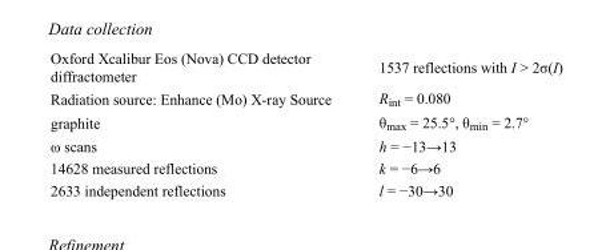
<table><tbody><tr><td>Oxford Xcalibur Eos (Nova) CCD detector diffractometer</td><td>1537 reflections with I &gt; 2σ(I)</td></tr><tr><td>Radiation source: Enhance (Mo) X-ray Source</td><td>R<sub>int</sub> = 0.080</td></tr><tr><td>graphite</td><td>θ<sub>max</sub> = 25.5°, θ<sub>min</sub> = 2.7°</td></tr><tr><td>ω scans</td><td>h = −13→13</td></tr><tr><td>14628 measured reflections</td><td>k = −6→6</td></tr><tr><td>2633 independent reflections</td><td>l = −30→30</td></tr></tbody></table>